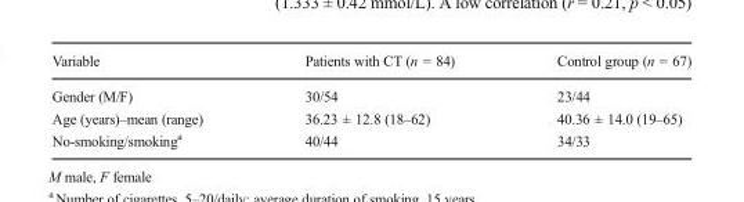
<table><thead><tr><td>Variable</td><td>Patients with CT (n = 84)</td><td>Control group (n = 67)</td></tr></thead><tbody><tr><td>Gender (M/F)</td><td>30/54</td><td>23/44</td></tr><tr><td>Age (years)–mean (range)</td><td>36.23 ± 12.8 (18–62)</td><td>40.36 ± 14.0 (19–65)</td></tr><tr><td>No-smoking/smoking<sup>a</sup></td><td>40/44</td><td>34/33</td></tr></tbody></table>